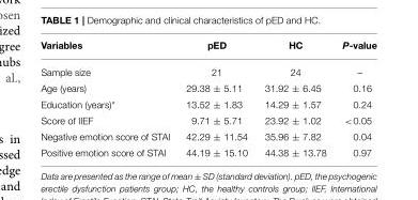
<table><thead><tr><td>Variables</td><td>pED</td><td>HC</td><td>P-value</td></tr></thead><tbody><tr><td>Sample size</td><td>21</td><td>24</td><td>–</td></tr><tr><td>Age (years)</td><td>29.38 ± 5.11</td><td>31.92 ± 6.45</td><td>0.16</td></tr><tr><td>Education (years)*</td><td>13.52 ± 1.83</td><td>14.29 ± 1.57</td><td>0.24</td></tr><tr><td>Score of IIEF</td><td>9.71 ± 5.71</td><td>23.92 ± 1.02</td><td>&lt;0.05</td></tr><tr><td>Negative emotion score of STAI</td><td>42.29 ± 11.54</td><td>35.96 ± 7.82</td><td>0.04</td></tr><tr><td>Positive emotion score of STAI</td><td>44.19 ± 15.10</td><td>44.38 ± 13.78</td><td>0.97</td></tr></tbody></table>